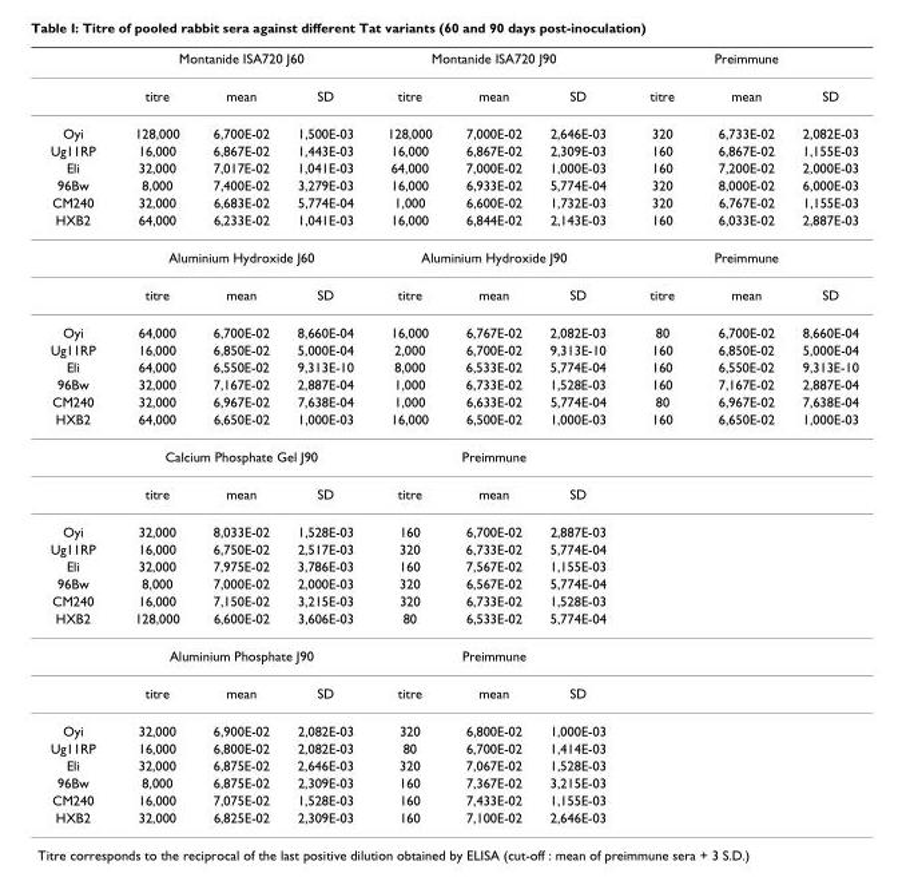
<table><thead><tr><td rowspan="2"></td><td colspan="3">Montanide ISA720 J60</td><td colspan="3">Montanide ISA720 J90</td><td colspan="3">Preimmune</td></tr><tr><td>titre</td><td>mean</td><td>SD</td><td>titre</td><td>mean</td><td>SD</td><td>titre</td><td>mean</td><td>SD</td></tr></thead><tbody><tr><td>Oyi</td><td>128,000</td><td>6,700E-02</td><td>1,500E-03</td><td>128,000</td><td>7,000E-02</td><td>2,646E-03</td><td>320</td><td>6,733E-02</td><td>2,082E-03</td></tr><tr><td>Ug11RP</td><td>16,000</td><td>6,867E-02</td><td>1,443E-03</td><td>16,000</td><td>6,867E-02</td><td>2,309E-03</td><td>160</td><td>6,867E-02</td><td>1,155E-03</td></tr><tr><td>Eli</td><td>32,000</td><td>7,017E-02</td><td>1,041E-03</td><td>64,000</td><td>7,000E-02</td><td>1,000E-03</td><td>160</td><td>7,200E-02</td><td>2,000E-03</td></tr><tr><td>96Bw</td><td>8,000</td><td>7,400E-02</td><td>3,279E-03</td><td>16,000</td><td>6,933E-02</td><td>5,774E-04</td><td>320</td><td>8,000E-02</td><td>6,000E-03</td></tr><tr><td>CM240</td><td>32,000</td><td>6,683E-02</td><td>5,774E-04</td><td>1,000</td><td>6,600E-02</td><td>1,732E-03</td><td>320</td><td>6,767E-02</td><td>1,155E-03</td></tr><tr><td rowspan="3">HXB2</td><td>64,000</td><td>6,233E-02</td><td>1,041E-03</td><td>16,000</td><td>6,844E-02</td><td>2,143E-03</td><td>160</td><td>6,033E-02</td><td>2,887E-03</td></tr><tr><td colspan="3">Aluminium Hydroxide J60</td><td colspan="3">Aluminium Hydroxide J90</td><td colspan="3">Preimmune</td></tr><tr><td>titre</td><td>mean</td><td>SD</td><td>titre</td><td>mean</td><td>SD</td><td>titre</td><td>mean</td><td>SD</td></tr><tr><td>Oyi</td><td>64,000</td><td>6,700E-02</td><td>8,660E-04</td><td>16,000</td><td>6,767E-02</td><td>2,082E-03</td><td>80</td><td>6,700E-02</td><td>8,660E-04</td></tr><tr><td>Ug11RP</td><td>16,000</td><td>6,850E-02</td><td>5,000E-04</td><td>2,000</td><td>6,700E-02</td><td>9,313E-10</td><td>160</td><td>6,850E-02</td><td>5,000E-04</td></tr><tr><td>Eli</td><td>64,000</td><td>6,550E-02</td><td>9,313E-10</td><td>8,000</td><td>6,533E-02</td><td>5,774E-04</td><td>160</td><td>6,550E-02</td><td>9,313E-10</td></tr><tr><td>96Bw</td><td>32,000</td><td>7,167E-02</td><td>2,887E-04</td><td>1,000</td><td>6,733E-02</td><td>1,528E-03</td><td>160</td><td>7,167E-02</td><td>2,887E-04</td></tr><tr><td>CM240</td><td>32,000</td><td>6,967E-02</td><td>7,638E-04</td><td>1,000</td><td>6,633E-02</td><td>5,774E-04</td><td>80</td><td>6,967E-02</td><td>7,638E-04</td></tr><tr><td rowspan="3">HXB2</td><td>64,000</td><td>6,650E-02</td><td>1,000E-03</td><td>16,000</td><td>6,500E-02</td><td>1,000E-03</td><td>160</td><td>6,650E-02</td><td>1,000E-03</td></tr><tr><td colspan="3">Calcium Phosphate Gel J90</td><td colspan="3">Preimmune</td><td></td><td></td><td></td></tr><tr><td>titre</td><td>mean</td><td>SD</td><td>titre</td><td>mean</td><td>SD</td><td></td><td></td><td></td></tr><tr><td>Oyi</td><td>32,000</td><td>8,033E-02</td><td>1,528E-03</td><td>160</td><td>6,700E-02</td><td>2,887E-03</td><td></td><td></td><td></td></tr><tr><td>Ug11RP</td><td>16,000</td><td>6,750E-02</td><td>2,517E-03</td><td>320</td><td>6,733E-02</td><td>5,774E-04</td><td></td><td></td><td></td></tr><tr><td>Eli</td><td>32,000</td><td>7,975E-02</td><td>3,786E-03</td><td>160</td><td>7,567E-02</td><td>1,155E-03</td><td></td><td></td><td></td></tr><tr><td>96Bw</td><td>8,000</td><td>7,000E-02</td><td>2,000E-03</td><td>320</td><td>6,567E-02</td><td>5,774E-04</td><td></td><td></td><td></td></tr><tr><td>CM240</td><td>16,000</td><td>7,150E-02</td><td>3,215E-03</td><td>320</td><td>6,733E-02</td><td>1,528E-03</td><td></td><td></td><td></td></tr><tr><td rowspan="3">HXB2</td><td>128,000</td><td>6,600E-02</td><td>3,606E-03</td><td>80</td><td>6,533E-02</td><td>5,774E-04</td><td></td><td></td><td></td></tr><tr><td colspan="3">Aluminium Phosphate J90</td><td colspan="3">Preimmune</td><td></td><td></td><td></td></tr><tr><td>titre</td><td>mean</td><td>SD</td><td>titre</td><td>mean</td><td>SD</td><td></td><td></td><td></td></tr><tr><td>Oyi</td><td>32,000</td><td>6,900E-02</td><td>2,082E-03</td><td>320</td><td>6,800E-02</td><td>1,000E-03</td><td></td><td></td><td></td></tr><tr><td>Ug11RP</td><td>16,000</td><td>6,800E-02</td><td>2,082E-03</td><td>80</td><td>6,700E-02</td><td>1,414E-03</td><td></td><td></td><td></td></tr><tr><td>Eli</td><td>32,000</td><td>6,875E-02</td><td>2,646E-03</td><td>320</td><td>7,067E-02</td><td>1,528E-03</td><td></td><td></td><td></td></tr><tr><td>96Bw</td><td>8,000</td><td>6,875E-02</td><td>2,309E-03</td><td>160</td><td>7,367E-02</td><td>3,215E-03</td><td></td><td></td><td></td></tr><tr><td>CM240</td><td>16,000</td><td>7,075E-02</td><td>1,528E-03</td><td>160</td><td>7,433E-02</td><td>1,155E-03</td><td></td><td></td><td></td></tr><tr><td>HXB2</td><td>32,000</td><td>6,825E-02</td><td>2,309E-03</td><td>160</td><td>7,100E-02</td><td>2,646E-03</td><td></td><td></td><td></td></tr></tbody></table>